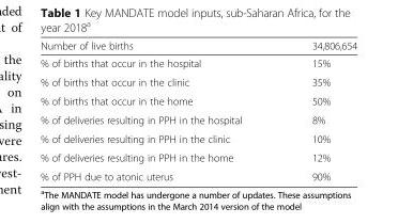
<table><thead><tr><td>Number of live births</td><td>34,806,654</td></tr></thead><tbody><tr><td>% of births that occur in the hospital</td><td>15%</td></tr><tr><td>% of births that occur in the clinic</td><td>35%</td></tr><tr><td>% of births that occur in the home</td><td>50%</td></tr><tr><td>% of deliveries resulting in PPH in the hospital</td><td>8%</td></tr><tr><td>% of deliveries resulting in PPH in the clinic</td><td>10%</td></tr><tr><td>% of deliveries resulting in PPH in the home</td><td>12%</td></tr><tr><td>% of PPH due to atonic uterus</td><td>90%</td></tr></tbody></table>